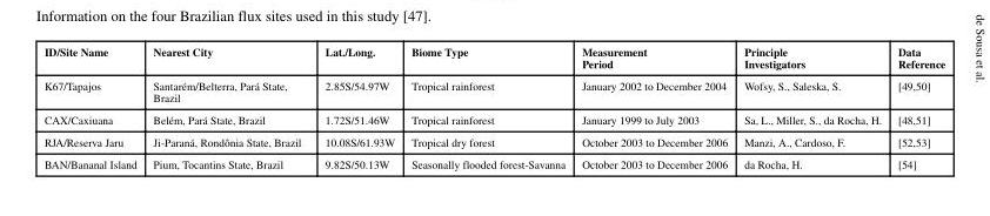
<table><thead><tr><td>ID/Site Name</td><td>Nearest City</td><td>Lat./Long.</td><td>Biome Type</td><td>Measurement Period</td><td>Principle Investigators</td><td>Data Reference</td></tr></thead><tbody><tr><td>K67/Tapajos</td><td>Santarém/Belterra, Pará State, Brazil</td><td>2.85S/54.97W</td><td>Tropical rainforest</td><td>January 2002 to December 2004</td><td>Wofsy, S., Saleska, S.</td><td>[49,50]</td></tr><tr><td>CAX/Caxiuana</td><td>Belém, Pará State, Brazil</td><td>1.72S/51.46W</td><td>Tropical rainforest</td><td>January 1999 to July 2003</td><td>Sa, L., Miller, S., da Rocha, H.</td><td>[48,51]</td></tr><tr><td>RJA/Reserva Jaru</td><td>Ji-Paraná, Rondônia State, Brazil</td><td>10.08S/61.93W</td><td>Tropical dry forest</td><td>October 2003 to December 2006</td><td>Manzi, A., Cardoso, F.</td><td>[52,53]</td></tr><tr><td>BAN/Bananal Island</td><td>Pium, Tocantins State, Brazil</td><td>9.82S/50.13W</td><td>Seasonally flooded forest-Savanna</td><td>October 2003 to December 2006</td><td>da Rocha, H.</td><td>[54]</td></tr></tbody></table>